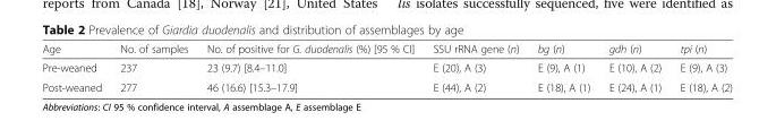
<table><thead><tr><td>Age</td><td>No. of samples</td><td>No. of positive for G. duodenalis (%) [95 % CI]</td><td>SSU rRNA gene (n)</td><td>bg (n)</td><td>gdh (n)</td><td>tpi (n)</td></tr></thead><tbody><tr><td>Pre-weaned</td><td>237</td><td>23 (9.7) [8.4–11.0]</td><td>E (20), A (3)</td><td>E (9), A (1)</td><td>E (10), A (2)</td><td>E (9), A (3)</td></tr><tr><td>Post-weaned</td><td>277</td><td>46 (16.6) [15.3–17.9]</td><td>E (44), A (2)</td><td>E (18), A (1)</td><td>E (24), A (1)</td><td>E (18), A (2)</td></tr></tbody></table>